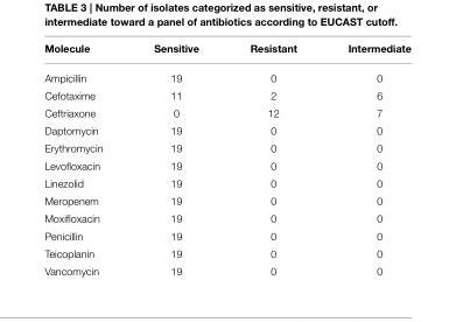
<table><thead><tr><td>Molecule</td><td>Sensitive</td><td>Resistant</td><td>Intermediate</td></tr></thead><tbody><tr><td>Ampicillin</td><td>19</td><td>0</td><td>0</td></tr><tr><td>Cefotaxime</td><td>11</td><td>2</td><td>6</td></tr><tr><td>Ceftriaxone</td><td>0</td><td>12</td><td>7</td></tr><tr><td>Daptomycin</td><td>19</td><td>0</td><td>0</td></tr><tr><td>Erythromycin</td><td>19</td><td>0</td><td>0</td></tr><tr><td>Levofloxacin</td><td>19</td><td>0</td><td>0</td></tr><tr><td>Linezolid</td><td>19</td><td>0</td><td>0</td></tr><tr><td>Meropenem</td><td>19</td><td>0</td><td>0</td></tr><tr><td>Moxifloxacin</td><td>19</td><td>0</td><td>0</td></tr><tr><td>Penicillin</td><td>19</td><td>0</td><td>0</td></tr><tr><td>Teicoplanin</td><td>19</td><td>0</td><td>0</td></tr><tr><td>Vancomycin</td><td>19</td><td>0</td><td>0</td></tr></tbody></table>